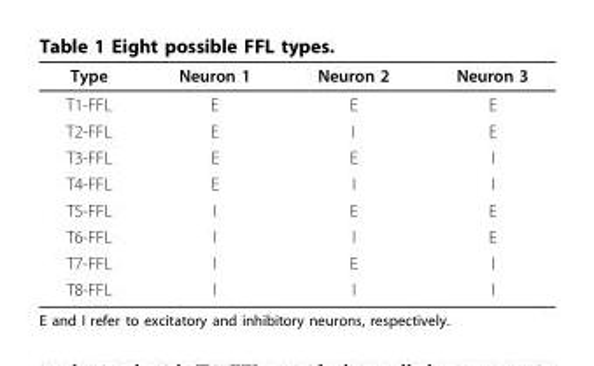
<table><thead><tr><td>Type</td><td>Neuron 1</td><td>Neuron 2</td><td>Neuron 3</td></tr></thead><tbody><tr><td>T1-FFL</td><td>E</td><td>E</td><td>E</td></tr><tr><td>T2-FFL</td><td>E</td><td>I</td><td>E</td></tr><tr><td>T3-FFL</td><td>E</td><td>E</td><td>I</td></tr><tr><td>T4-FFL</td><td>E</td><td>I</td><td>I</td></tr><tr><td>T5-FFL</td><td>I</td><td>E</td><td>E</td></tr><tr><td>T6-FFL</td><td>I</td><td>I</td><td>E</td></tr><tr><td>T7-FFL</td><td>I</td><td>E</td><td>I</td></tr><tr><td>T8-FFL</td><td>I</td><td>I</td><td>I</td></tr></tbody></table>